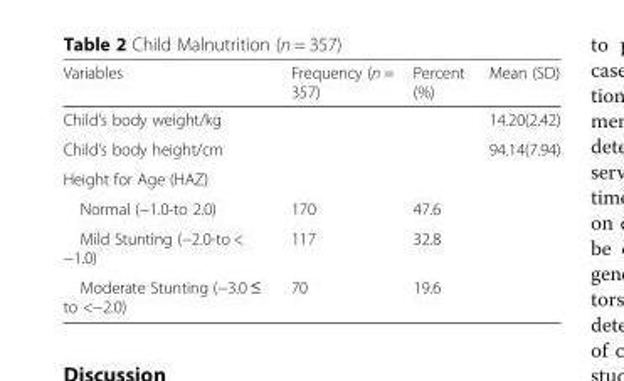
<table><thead><tr><td>Variables</td><td>Frequency (n = 357)</td><td>Percent (%)</td><td>Mean (SD)</td></tr></thead><tbody><tr><td>Child’s body weight/kg</td><td></td><td></td><td>14.20(2.42)</td></tr><tr><td>Child’s body height/cm</td><td></td><td></td><td>94.14(7.94)</td></tr><tr><td colspan="4">Height for Age (HAZ)</td></tr><tr><td>Normal (−1.0-to 2.0)</td><td>170</td><td>47.6</td><td></td></tr><tr><td>Mild Stunting (−2.0-to &lt; −1.0)</td><td>117</td><td>32.8</td><td></td></tr><tr><td>Moderate Stunting (−3.0 ≤ to &lt;−2.0)</td><td>70</td><td>19.6</td><td></td></tr></tbody></table>